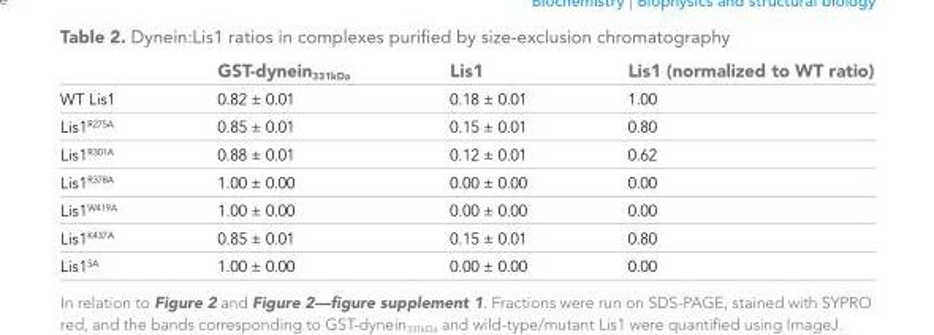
<table><thead><tr><td></td><td>GST-dynein<sub>331kDa</sub></td><td>Lis1</td><td>Lis1 (normalized to WT ratio)</td></tr></thead><tbody><tr><td>WT Lis1</td><td>0.82 ± 0.01</td><td>0.18 ± 0.01</td><td>1.00</td></tr><tr><td>Lis1<sup>R275A</sup></td><td>0.85 ± 0.01</td><td>0.15 ± 0.01</td><td>0.80</td></tr><tr><td>Lis1<sup>R301A</sup></td><td>0.88 ± 0.01</td><td>0.12 ± 0.01</td><td>0.62</td></tr><tr><td>Lis1<sup>R378A</sup></td><td>1.00 ± 0.00</td><td>0.00 ± 0.00</td><td>0.00</td></tr><tr><td>Lis1<sup>W419A</sup></td><td>1.00 ± 0.00</td><td>0.00 ± 0.00</td><td>0.00</td></tr><tr><td>Lis1<sup>K437A</sup></td><td>0.85 ± 0.01</td><td>0.15 ± 0.01</td><td>0.80</td></tr><tr><td>Lis1<sup>5A</sup></td><td>1.00 ± 0.00</td><td>0.00 ± 0.00</td><td>0.00</td></tr></tbody></table>